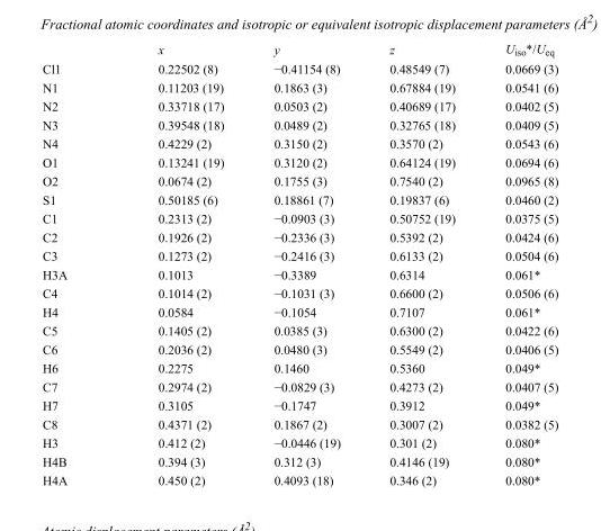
<table><thead><tr><td></td><td>x</td><td>y</td><td>z</td><td>U<sub>iso</sub>*/U<sub>eq</sub></td></tr></thead><tbody><tr><td>Cl1</td><td>0.22502 (8)</td><td>−0.41154 (8)</td><td>0.48549 (7)</td><td>0.0669 (3)</td></tr><tr><td>N1</td><td>0.11203 (19)</td><td>0.1863 (3)</td><td>0.67884 (19)</td><td>0.0541 (6)</td></tr><tr><td>N2</td><td>0.33718 (17)</td><td>0.0503 (2)</td><td>0.40689 (17)</td><td>0.0402 (5)</td></tr><tr><td>N3</td><td>0.39548 (18)</td><td>0.0489 (2)</td><td>0.32765 (18)</td><td>0.0409 (5)</td></tr><tr><td>N4</td><td>0.4229 (2)</td><td>0.3150 (2)</td><td>0.3570 (2)</td><td>0.0543 (6)</td></tr><tr><td>O1</td><td>0.13241 (19)</td><td>0.3120 (2)</td><td>0.64124 (19)</td><td>0.0694 (6)</td></tr><tr><td>O2</td><td>0.0674 (2)</td><td>0.1755 (3)</td><td>0.7540 (2)</td><td>0.0965 (8)</td></tr><tr><td>S1</td><td>0.50185 (6)</td><td>0.18861 (7)</td><td>0.19837 (6)</td><td>0.0460 (2)</td></tr><tr><td>C1</td><td>0.2313 (2)</td><td>−0.0903 (3)</td><td>0.50752 (19)</td><td>0.0375 (5)</td></tr><tr><td>C2</td><td>0.1926 (2)</td><td>−0.2336 (3)</td><td>0.5392 (2)</td><td>0.0424 (6)</td></tr><tr><td>C3</td><td>0.1273 (2)</td><td>−0.2416 (3)</td><td>0.6133 (2)</td><td>0.0504 (6)</td></tr><tr><td>H3A</td><td>0.1013</td><td>−0.3389</td><td>0.6314</td><td>0.061*</td></tr><tr><td>C4</td><td>0.1014 (2)</td><td>−0.1031 (3)</td><td>0.6600 (2)</td><td>0.0506 (6)</td></tr><tr><td>H4</td><td>0.0584</td><td>−0.1054</td><td>0.7107</td><td>0.061*</td></tr><tr><td>C5</td><td>0.1405 (2)</td><td>0.0385 (3)</td><td>0.6300 (2)</td><td>0.0422 (6)</td></tr><tr><td>C6</td><td>0.2036 (2)</td><td>0.0480 (3)</td><td>0.5549 (2)</td><td>0.0406 (5)</td></tr><tr><td>H6</td><td>0.2275</td><td>0.1460</td><td>0.5360</td><td>0.049*</td></tr><tr><td>C7</td><td>0.2974 (2)</td><td>−0.0829 (3)</td><td>0.4273 (2)</td><td>0.0407 (5)</td></tr><tr><td>H7</td><td>0.3105</td><td>−0.1747</td><td>0.3912</td><td>0.049*</td></tr><tr><td>C8</td><td>0.4371 (2)</td><td>0.1867 (2)</td><td>0.3007 (2)</td><td>0.0382 (5)</td></tr><tr><td>H3</td><td>0.412 (2)</td><td>−0.0446 (19)</td><td>0.301 (2)</td><td>0.080*</td></tr><tr><td>H4B</td><td>0.394 (3)</td><td>0.312 (3)</td><td>0.4146 (19)</td><td>0.080*</td></tr><tr><td>H4A</td><td>0.450 (2)</td><td>0.4093 (18)</td><td>0.346 (2)</td><td>0.080*</td></tr></tbody></table>